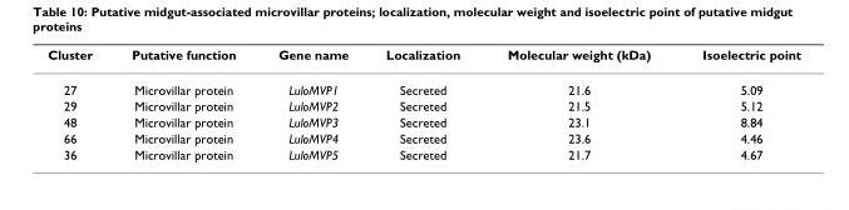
<table><thead><tr><td>Cluster</td><td>Putative function</td><td>Gene name</td><td>Localization</td><td>Molecular weight (kDa)</td><td>Isoelectric point</td></tr></thead><tbody><tr><td>27</td><td>Microvillar protein</td><td>LuloMVP1</td><td>Secreted</td><td>21.6</td><td>5.09</td></tr><tr><td>29</td><td>Microvillar protein</td><td>LuloMVP2</td><td>Secreted</td><td>21.5</td><td>5.12</td></tr><tr><td>48</td><td>Microvillar protein</td><td>LuloMVP3</td><td>Secreted</td><td>23.1</td><td>8.84</td></tr><tr><td>66</td><td>Microvillar protein</td><td>LuloMVP4</td><td>Secreted</td><td>23.6</td><td>4.46</td></tr><tr><td>36</td><td>Microvillar protein</td><td>LuloMVP5</td><td>Secreted</td><td>21.7</td><td>4.67</td></tr></tbody></table>